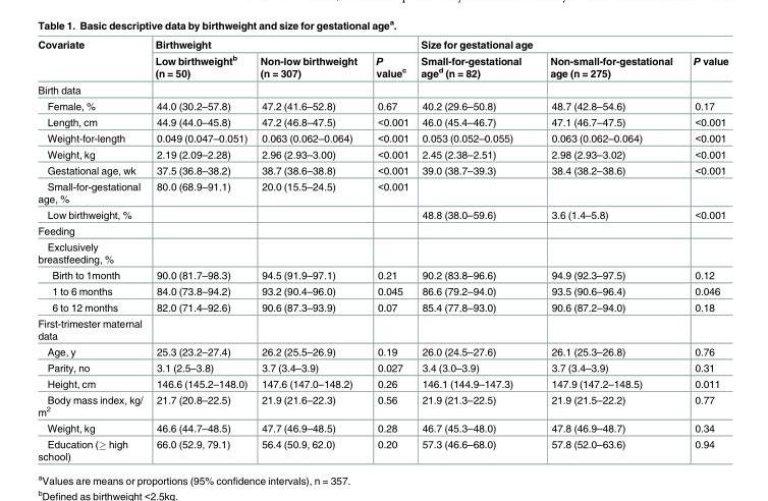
<table><thead><tr><td rowspan="2">Covariate</td><td colspan="3">Birthweight</td><td colspan="3">Size for gestational age</td></tr><tr><td>Low birthweight<sup>b</sup> (n = 50)</td><td>Non-low birthweight (n = 307)</td><td>P value<sup>c</sup></td><td>Small-for-gestational age<sup>d</sup> (n = 82)</td><td>Non-small-for-gestational age (n = 275)</td><td>P value</td></tr></thead><tbody><tr><td colspan="7">Birth data</td></tr><tr><td>Female, %</td><td>44.0 (30.2–57.8)</td><td>47.2 (41.6–52.8)</td><td>0.67</td><td>40.2 (29.6–50.8)</td><td>48.7 (42.8–54.6)</td><td>0.17</td></tr><tr><td>Length, cm</td><td>44.9 (44.0–45.8)</td><td>47.2 (46.8–47.5)</td><td>&lt;0.001</td><td>46.0 (45.4–46.7)</td><td>47.1 (46.7–47.5)</td><td>&lt;0.001</td></tr><tr><td>Weight-for-length</td><td>0.049 (0.047–0.051)</td><td>0.063 (0.062–0.064)</td><td>&lt;0.001</td><td>0.053 (0.052–0.055)</td><td>0.063 (0.062–0.064)</td><td>&lt;0.001</td></tr><tr><td>Weight, kg</td><td>2.19 (2.09–2.28)</td><td>2.96 (2.93–3.00)</td><td>&lt;0.001</td><td>2.45 (2.38–2.51)</td><td>2.98 (2.93–3.02)</td><td>&lt;0.001</td></tr><tr><td>Gestational age, wk</td><td>37.5 (36.8–38.2)</td><td>38.7 (38.6–38.8)</td><td>&lt;0.001</td><td>39.0 (38.7–39.3)</td><td>38.4 (38.2–38.6)</td><td>&lt;0.001</td></tr><tr><td>Small-for-gestational age, %</td><td>80.0 (68.9–91.1)</td><td>20.0 (15.5–24.5)</td><td>&lt;0.001</td><td></td><td></td><td></td></tr><tr><td>Low birthweight, %</td><td></td><td></td><td></td><td>48.8 (38.0–59.6)</td><td>3.6 (1.4–5.8)</td><td>&lt;0.001</td></tr><tr><td colspan="7">Feeding</td></tr><tr><td colspan="7">Exclusively breastfeeding, %</td></tr><tr><td>Birth to 1month</td><td>90.0 (81.7–98.3)</td><td>94.5 (91.9–97.1)</td><td>0.21</td><td>90.2 (83.8–96.6)</td><td>94.9 (92.3–97.5)</td><td>0.12</td></tr><tr><td>1 to 6 months</td><td>84.0 (73.8–94.2)</td><td>93.2 (90.4–96.0)</td><td>0.045</td><td>86.6 (79.2–94.0)</td><td>93.5 (90.6–96.4)</td><td>0.046</td></tr><tr><td>6 to 12 months</td><td>82.0 (71.4–92.6)</td><td>90.6 (87.3–93.9)</td><td>0.07</td><td>85.4 (77.8–93.0)</td><td>90.6 (87.2–94.0)</td><td>0.18</td></tr><tr><td colspan="7">First-trimester maternal data</td></tr><tr><td>Age, y</td><td>25.3 (23.2–27.4)</td><td>26.2 (25.5–26.9)</td><td>0.19</td><td>26.0 (24.5–27.6)</td><td>26.1 (25.3–26.8)</td><td>0.76</td></tr><tr><td>Parity, no</td><td>3.1 (2.5–3.8)</td><td>3.7 (3.4–3.9)</td><td>0.027</td><td>3.4 (3.0–3.9)</td><td>3.7 (3.4–3.9)</td><td>0.31</td></tr><tr><td>Height, cm</td><td>146.6 (145.2–148.0)</td><td>147.6 (147.0–148.2)</td><td>0.26</td><td>146.1 (144.9–147.3)</td><td>147.9 (147.2–148.5)</td><td>0.011</td></tr><tr><td>Body mass index, kg/ m<sup>2</sup></td><td>21.7 (20.8–22.5)</td><td>21.9 (21.6–22.3)</td><td>0.56</td><td>21.9 (21.3–22.5)</td><td>21.9 (21.5–22.2)</td><td>0.77</td></tr><tr><td>Weight, kg</td><td>46.6 (44.7–48.5)</td><td>47.7 (46.9–48.5)</td><td>0.28</td><td>46.7 (45.3–48.0)</td><td>47.8 (46.9–48.7)</td><td>0.34</td></tr><tr><td>Education (≥ high school)</td><td>66.0 (52.9, 79.1)</td><td>56.4 (50.9, 62.0)</td><td>0.20</td><td>57.3 (46.6–68.0)</td><td>57.8 (52.0–63.6)</td><td>0.94</td></tr></tbody></table>